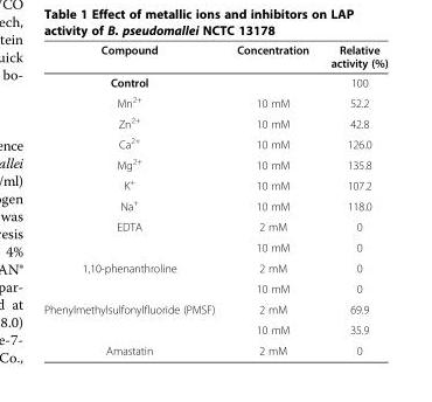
<table><thead><tr><td>Compound</td><td>Concentration</td><td>Relative activity (%)</td></tr></thead><tbody><tr><td>Control</td><td></td><td>100</td></tr><tr><td>Mn<sup>2+</sup></td><td>10 mM</td><td>52.2</td></tr><tr><td>Zn<sup>2+</sup></td><td>10 mM</td><td>42.8</td></tr><tr><td>Ca<sup>2+</sup></td><td>10 mM</td><td>126.0</td></tr><tr><td>Mg<sup>2+</sup></td><td>10 mM</td><td>135.8</td></tr><tr><td>K<sup>+</sup></td><td>10 mM</td><td>107.2</td></tr><tr><td>Na<sup>+</sup></td><td>10 mM</td><td>118.0</td></tr><tr><td rowspan="2">EDTA</td><td>2 mM</td><td>0</td></tr><tr><td>10 mM</td><td>0</td></tr><tr><td rowspan="2">1,10-phenanthroline</td><td>2 mM</td><td>0</td></tr><tr><td>10 mM</td><td>0</td></tr><tr><td rowspan="2">Phenylmethylsulfonylfluoride (PMSF)</td><td>2 mM</td><td>69.9</td></tr><tr><td>10 mM</td><td>35.9</td></tr><tr><td>Amastatin</td><td>2 mM</td><td>0</td></tr></tbody></table>